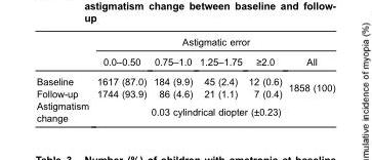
<table><thead><tr><td rowspan="2"></td><td colspan="5">Astigmatic error</td></tr><tr><td>0.0–0.50</td><td>0.75–1.0</td><td>1.25–1.75</td><td>≥2.0</td><td>All</td></tr></thead><tbody><tr><td>Baseline</td><td>1617 (87.0)</td><td>184 (9.9)</td><td>45 (2.4)</td><td>12 (0.6)</td><td rowspan="2">1858 (100)</td></tr><tr><td>Follow-up</td><td>1744 (93.9)</td><td>86 (4.6)</td><td>21 (1.1)</td><td>7 (0.4)</td></tr><tr><td>Astigmatism change</td><td colspan="5">0.03 cylindrical diopter (±0.23)</td></tr></tbody></table>